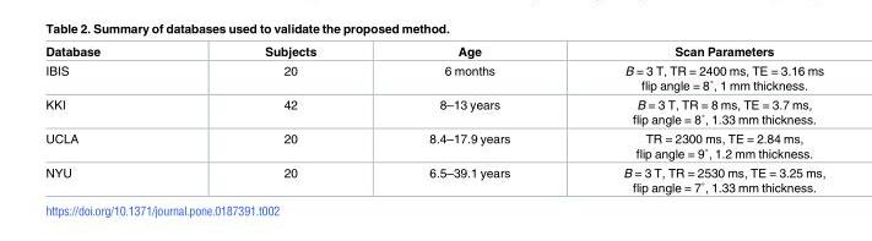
<table><thead><tr><td>Database</td><td>Subjects</td><td>Age</td><td>Scan Parameters</td></tr></thead><tbody><tr><td>IBIS</td><td>20</td><td>6 months</td><td>B = 3 T, TR = 2400 ms, TE = 3.16 ms flip angle = 8˚, 1 mm thickness.</td></tr><tr><td>KKI</td><td>42</td><td>8–13 years</td><td>B = 3 T, TR = 8 ms, TE = 3.7 ms, flip angle = 8˚, 1.33 mm thickness.</td></tr><tr><td>UCLA</td><td>20</td><td>8.4–17.9 years</td><td>TR = 2300 ms, TE = 2.84 ms, flip angle = 9˚, 1.2 mm thickness.</td></tr><tr><td>NYU</td><td>20</td><td>6.5–39.1 years</td><td>B = 3 T, TR = 2530 ms, TE = 3.25 ms, flip angle = 7˚, 1.33 mm thickness.</td></tr></tbody></table>